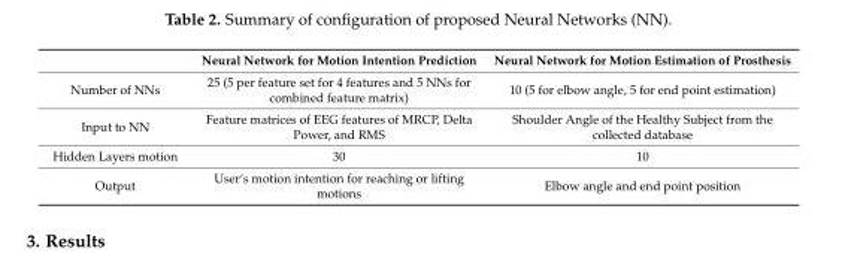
<table><thead><tr><td></td><td>Neural Network for Motion Intention Prediction</td><td>Neural Network for Motion Estimation of Prosthesis</td></tr></thead><tbody><tr><td>Number of NNs</td><td>25 (5 per feature set for 4 features and 5 NNs for combined feature matrix)</td><td>10 (5 for elbow angle, 5 for end point estimation)</td></tr><tr><td>Input to NN</td><td>Feature matrices of EEG features of MRCP, Delta Power, and RMS</td><td>Shoulder Angle of the Healthy Subject from the collected database</td></tr><tr><td>Hidden Layers motion</td><td>30</td><td>10</td></tr><tr><td>Output</td><td>User‘s motion intention for reaching or lifting motions</td><td>Elbow angle and end point position</td></tr></tbody></table>